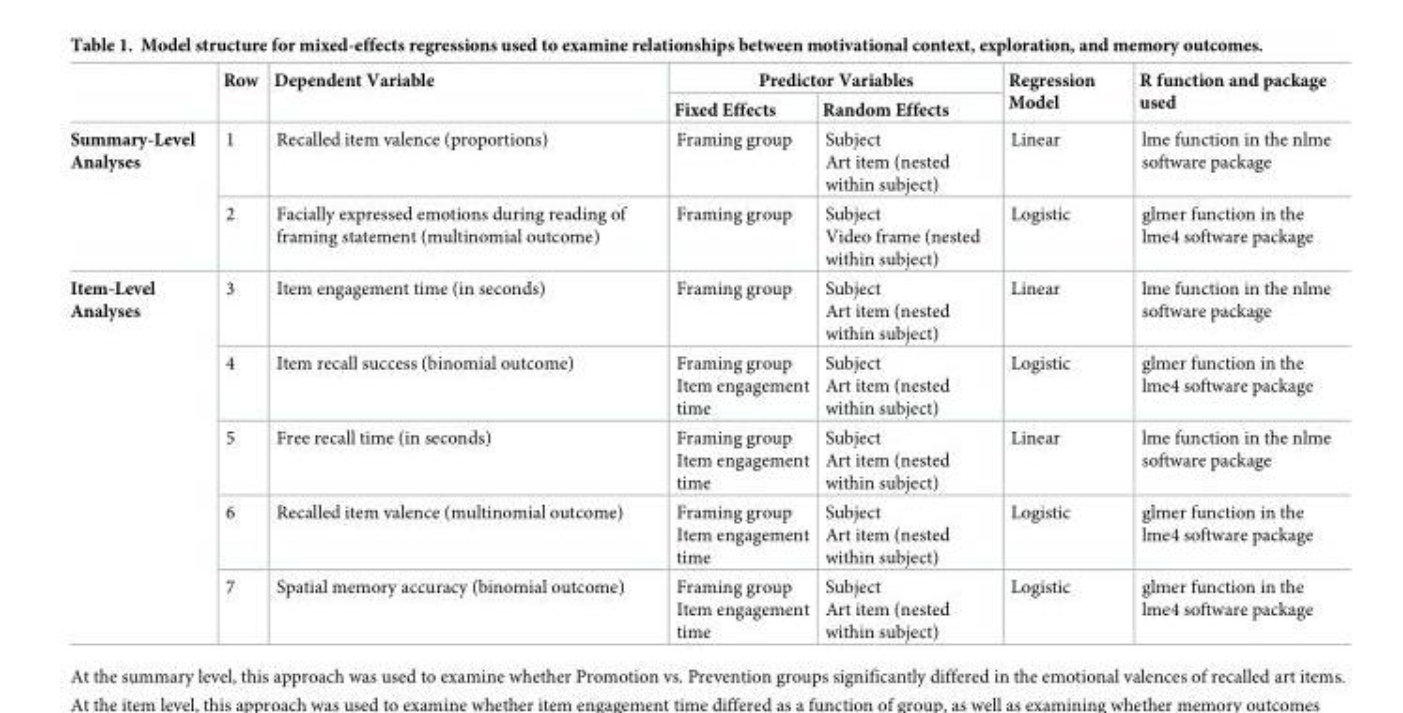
<table><thead><tr><td rowspan="2"></td><td rowspan="2">Row</td><td rowspan="2">Dependent Variable</td><td colspan="2">Predictor Variables</td><td rowspan="2">Regression Model</td><td rowspan="2">R function and package used</td></tr><tr><td>Fixed Effects</td><td>Random Effects</td></tr></thead><tbody><tr><td rowspan="2">Summary-Level Analyses</td><td>1</td><td>Recalled item valence (proportions)</td><td>Framing group</td><td>Subject Art item (nested within subject)</td><td>Linear</td><td>lme function in the nlme software package</td></tr><tr><td>2</td><td>Facially expressed emotions during reading of framing statement (multinomial outcome)</td><td>Framing group</td><td>Subject Video frame (nested within subject)</td><td>Logistic</td><td>glmer function in the lme4 software package</td></tr><tr><td rowspan="5">Item-Level Analyses</td><td>3</td><td>Item engagement time (in seconds)</td><td>Framing group</td><td>Subject Art item (nested within subject)</td><td>Linear</td><td>lme function in the nlme software package</td></tr><tr><td>4</td><td>Item recall success (binomial outcome)</td><td>Framing group Item engagement time</td><td>Subject Art item (nested within subject)</td><td>Logistic</td><td>glmer function in the lme4 software package</td></tr><tr><td>5</td><td>Free recall time (in seconds)</td><td>Framing group Item engagement time</td><td>Subject Art item (nested within subject)</td><td>Linear</td><td>lme function in the nlme software package</td></tr><tr><td>6</td><td>Recalled item valence (multinomial outcome)</td><td>Framing group Item engagement time</td><td>Subject Art item (nested within subject)</td><td>Logistic</td><td>glmer function in the lme4 software package</td></tr><tr><td>7</td><td>Spatial memory accuracy (binomial outcome)</td><td>Framing group Item engagement time</td><td>Subject Art item (nested within subject)</td><td>Logistic</td><td>glmer function in the lme4 software package</td></tr></tbody></table>